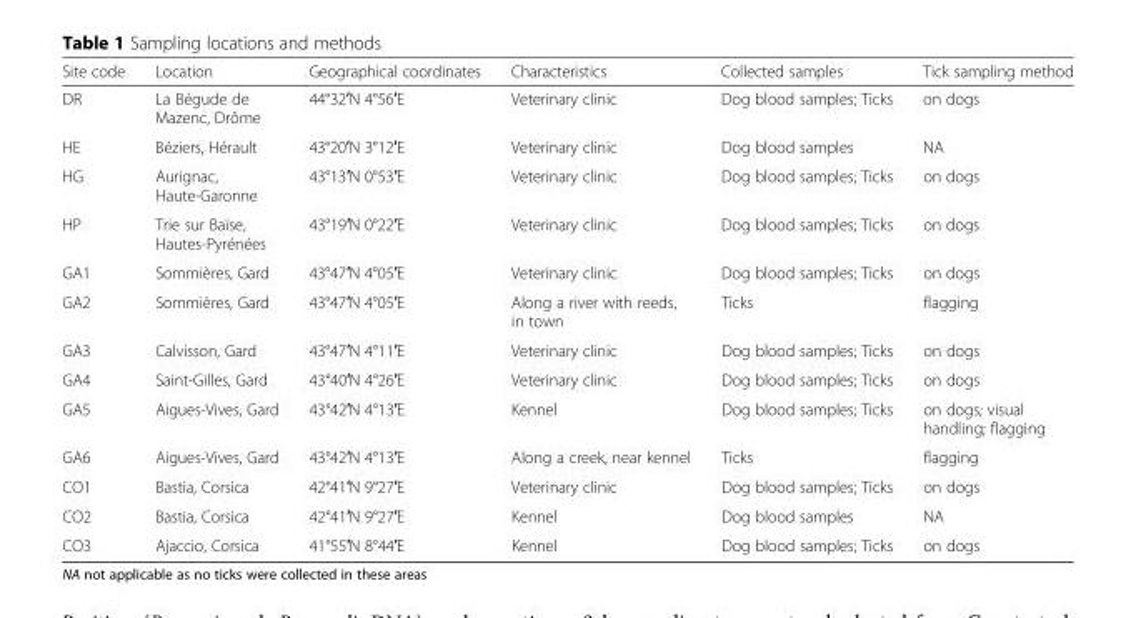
<table><thead><tr><td>Site code</td><td>Location</td><td>Geographical coordinates</td><td>Characteristics</td><td>Collected samples</td><td>Tick sampling method</td></tr></thead><tbody><tr><td>DR</td><td>La Bégude de Mazenc, Drôme</td><td>44°32′N 4°56′E</td><td>Veterinary clinic</td><td>Dog blood samples; Ticks</td><td>on dogs</td></tr><tr><td>HE</td><td>Béziers, Hérault</td><td>43°20′N 3°12′E</td><td>Veterinary clinic</td><td>Dog blood samples</td><td>NA</td></tr><tr><td>HG</td><td>Aurignac, Haute-Garonne</td><td>43°13′N 0°53′E</td><td>Veterinary clinic</td><td>Dog blood samples; Ticks</td><td>on dogs</td></tr><tr><td>HP</td><td>Trie sur Baïse, Hautes-Pyrénées</td><td>43°19′N 0°22′E</td><td>Veterinary clinic</td><td>Dog blood samples; Ticks</td><td>on dogs</td></tr><tr><td>GA1</td><td>Sommières, Gard</td><td>43°47′N 4°05′E</td><td>Veterinary clinic</td><td>Dog blood samples; Ticks</td><td>on dogs</td></tr><tr><td>GA2</td><td>Sommières, Gard</td><td>43°47′N 4°05′E</td><td>Along a river with reeds, in town</td><td>Ticks</td><td>flagging</td></tr><tr><td>GA3</td><td>Calvisson, Gard</td><td>43°47′N 4°11′E</td><td>Veterinary clinic</td><td>Dog blood samples; Ticks</td><td>on dogs</td></tr><tr><td>GA4</td><td>Saint-Gilles, Gard</td><td>43°40′N 4°26′E</td><td>Veterinary clinic</td><td>Dog blood samples; Ticks</td><td>on dogs</td></tr><tr><td>GA5</td><td>Aigues-Vives, Gard</td><td>43°42′N 4°13′E</td><td>Kennel</td><td>Dog blood samples; Ticks</td><td>on dogs; visual handling; flagging</td></tr><tr><td>GA6</td><td>Aigues-Vives, Gard</td><td>43°42′N 4°13′E</td><td>Along a creek, near kennel</td><td>Ticks</td><td>flagging</td></tr><tr><td>CO1</td><td>Bastia, Corsica</td><td>42°41′N 9°27′E</td><td>Veterinary clinic</td><td>Dog blood samples; Ticks</td><td>on dogs</td></tr><tr><td>CO2</td><td>Bastia, Corsica</td><td>42°41′N 9°27′E</td><td>Kennel</td><td>Dog blood samples</td><td>NA</td></tr><tr><td>CO3</td><td>Ajaccio, Corsica</td><td>41°55′N 8°44′E</td><td>Kennel</td><td>Dog blood samples; Ticks</td><td>on dogs</td></tr></tbody></table>